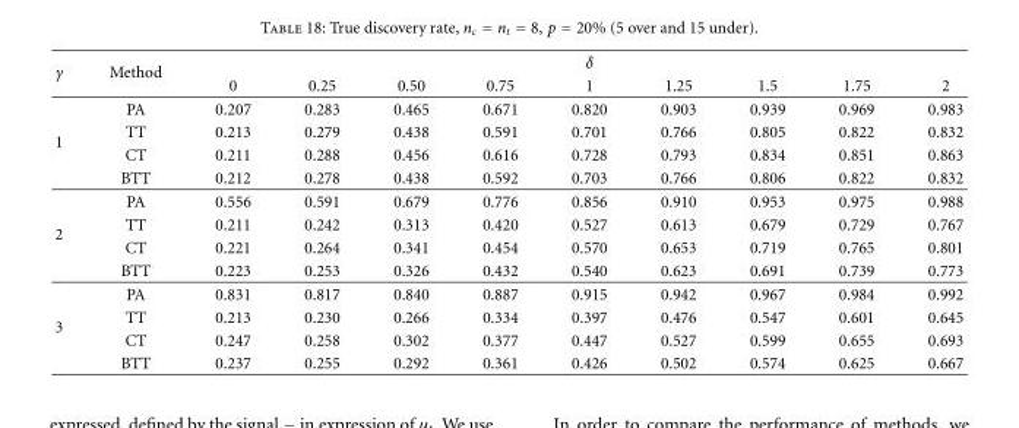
<table><thead><tr><td rowspan="2">γ</td><td rowspan="2">Method</td><td colspan="9">δ</td></tr><tr><td>0</td><td>0.25</td><td>0.50</td><td>0.75</td><td>1</td><td>1.25</td><td>1.5</td><td>1.75</td><td>2</td></tr></thead><tbody><tr><td rowspan="4">1</td><td>PA</td><td>0.207</td><td>0.283</td><td>0.465</td><td>0.671</td><td>0.820</td><td>0.903</td><td>0.939</td><td>0.969</td><td>0.983</td></tr><tr><td>TT</td><td>0.213</td><td>0.279</td><td>0.438</td><td>0.591</td><td>0.701</td><td>0.766</td><td>0.805</td><td>0.822</td><td>0.832</td></tr><tr><td>CT</td><td>0.211</td><td>0.288</td><td>0.456</td><td>0.616</td><td>0.728</td><td>0.793</td><td>0.834</td><td>0.851</td><td>0.863</td></tr><tr><td>BTT</td><td>0.212</td><td>0.278</td><td>0.438</td><td>0.592</td><td>0.703</td><td>0.766</td><td>0.806</td><td>0.822</td><td>0.832</td></tr><tr><td rowspan="4">2</td><td>PA</td><td>0.556</td><td>0.591</td><td>0.679</td><td>0.776</td><td>0.856</td><td>0.910</td><td>0.953</td><td>0.975</td><td>0.988</td></tr><tr><td>TT</td><td>0.211</td><td>0.242</td><td>0.313</td><td>0.420</td><td>0.527</td><td>0.613</td><td>0.679</td><td>0.729</td><td>0.767</td></tr><tr><td>CT</td><td>0.221</td><td>0.264</td><td>0.341</td><td>0.454</td><td>0.570</td><td>0.653</td><td>0.719</td><td>0.765</td><td>0.801</td></tr><tr><td>BTT</td><td>0.223</td><td>0.253</td><td>0.326</td><td>0.432</td><td>0.540</td><td>0.623</td><td>0.691</td><td>0.739</td><td>0.773</td></tr><tr><td rowspan="4">3</td><td>PA</td><td>0.831</td><td>0.817</td><td>0.840</td><td>0.887</td><td>0.915</td><td>0.942</td><td>0.967</td><td>0.984</td><td>0.992</td></tr><tr><td>TT</td><td>0.213</td><td>0.230</td><td>0.266</td><td>0.334</td><td>0.397</td><td>0.476</td><td>0.547</td><td>0.601</td><td>0.645</td></tr><tr><td>CT</td><td>0.247</td><td>0.258</td><td>0.302</td><td>0.377</td><td>0.447</td><td>0.527</td><td>0.599</td><td>0.655</td><td>0.693</td></tr><tr><td>BTT</td><td>0.237</td><td>0.255</td><td>0.292</td><td>0.361</td><td>0.426</td><td>0.502</td><td>0.574</td><td>0.625</td><td>0.667</td></tr></tbody></table>